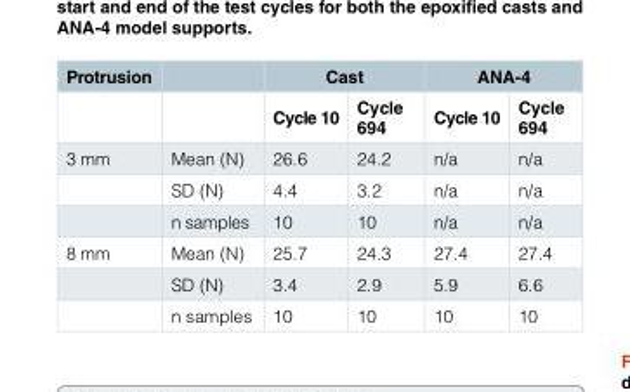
<table><thead><tr><td rowspan="2">Protrusion</td><td rowspan="2"></td><td colspan="2">Cast</td><td colspan="2">ANA-4</td></tr><tr><td>Cycle 10</td><td>Cycle 694</td><td>Cycle 10</td><td>Cycle 694</td></tr></thead><tbody><tr><td rowspan="3">3 mm</td><td>Mean (N)</td><td>26.6</td><td>24.2</td><td>n/a</td><td>n/a</td></tr><tr><td>SD (N)</td><td>4.4</td><td>3.2</td><td>n/a</td><td>n/a</td></tr><tr><td>n samples</td><td>10</td><td>10</td><td>n/a</td><td>n/a</td></tr><tr><td rowspan="3">8 mm</td><td>Mean (N)</td><td>25.7</td><td>24.3</td><td>27.4</td><td>27.4</td></tr><tr><td>SD (N)</td><td>3.4</td><td>2.9</td><td>5.9</td><td>6.6</td></tr><tr><td>n samples</td><td>10</td><td>10</td><td>10</td><td>10</td></tr></tbody></table>